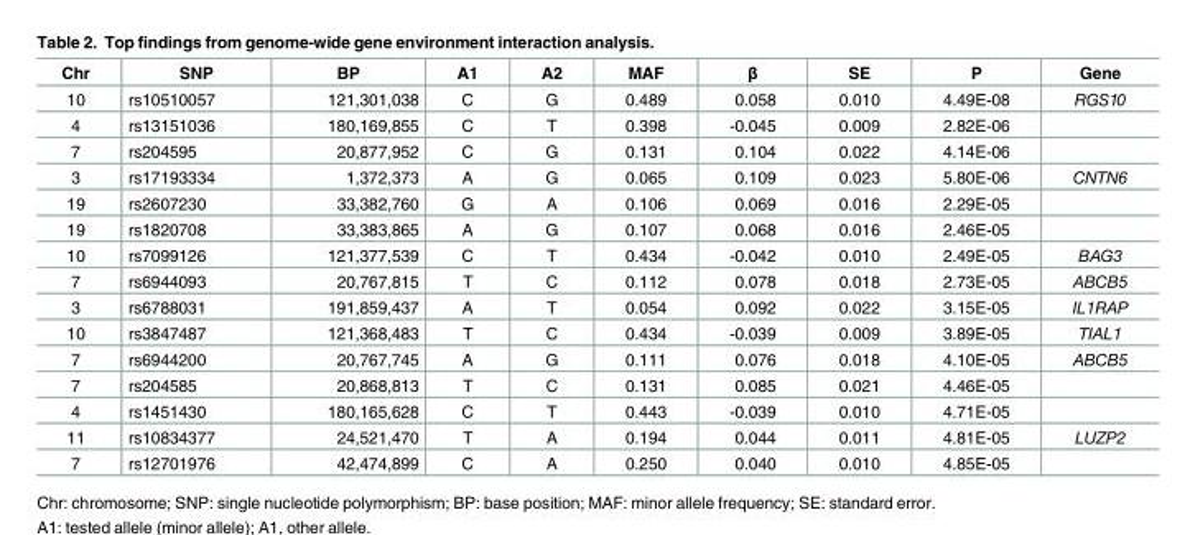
<table><thead><tr><td>Chr</td><td>SNP</td><td>BP</td><td>A1</td><td>A2</td><td>MAF</td><td>β</td><td>SE</td><td>P</td><td>Gene</td></tr></thead><tbody><tr><td>10</td><td>rs10510057</td><td>121,301,038</td><td>C</td><td>G</td><td>0.489</td><td>0.058</td><td>0.010</td><td>4.49E-08</td><td>RGS10</td></tr><tr><td>4</td><td>rs13151036</td><td>180,169,855</td><td>C</td><td>T</td><td>0.398</td><td>-0.045</td><td>0.009</td><td>2.82E-06</td><td></td></tr><tr><td>7</td><td>rs204595</td><td>20,877,952</td><td>C</td><td>G</td><td>0.131</td><td>0.104</td><td>0.022</td><td>4.14E-06</td><td></td></tr><tr><td>3</td><td>rs17193334</td><td>1,372,373</td><td>A</td><td>G</td><td>0.065</td><td>0.109</td><td>0.023</td><td>5.80E-06</td><td>CNTN6</td></tr><tr><td>19</td><td>rs2607230</td><td>33,382,760</td><td>G</td><td>A</td><td>0.106</td><td>0.069</td><td>0.016</td><td>2.29E-05</td><td></td></tr><tr><td>19</td><td>rs1820708</td><td>33,383,865</td><td>A</td><td>G</td><td>0.107</td><td>0.068</td><td>0.016</td><td>2.46E-05</td><td></td></tr><tr><td>10</td><td>rs7099126</td><td>121,377,539</td><td>C</td><td>T</td><td>0.434</td><td>-0.042</td><td>0.010</td><td>2.49E-05</td><td>BAG3</td></tr><tr><td>7</td><td>rs6944093</td><td>20,767,815</td><td>T</td><td>C</td><td>0.112</td><td>0.078</td><td>0.018</td><td>2.73E-05</td><td>ABCB5</td></tr><tr><td>3</td><td>rs6788031</td><td>191,859,437</td><td>A</td><td>T</td><td>0.054</td><td>0.092</td><td>0.022</td><td>3.15E-05</td><td>IL1RAP</td></tr><tr><td>10</td><td>rs3847487</td><td>121,368,483</td><td>T</td><td>C</td><td>0.434</td><td>-0.039</td><td>0.009</td><td>3.89E-05</td><td>TIAL1</td></tr><tr><td>7</td><td>rs6944200</td><td>20,767,745</td><td>A</td><td>G</td><td>0.111</td><td>0.076</td><td>0.018</td><td>4.10E-05</td><td>ABCB5</td></tr><tr><td>7</td><td>rs204585</td><td>20,868,813</td><td>T</td><td>C</td><td>0.131</td><td>0.085</td><td>0.021</td><td>4.46E-05</td><td></td></tr><tr><td>4</td><td>rs1451430</td><td>180,165,628</td><td>C</td><td>T</td><td>0.443</td><td>-0.039</td><td>0.010</td><td>4.71E-05</td><td></td></tr><tr><td>11</td><td>rs10834377</td><td>24,521,470</td><td>T</td><td>A</td><td>0.194</td><td>0.044</td><td>0.011</td><td>4.81E-05</td><td>LUZP2</td></tr><tr><td>7</td><td>rs12701976</td><td>42,474,899</td><td>C</td><td>A</td><td>0.250</td><td>0.040</td><td>0.010</td><td>4.85E-05</td><td></td></tr></tbody></table>